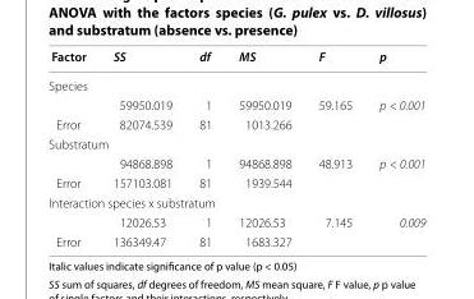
<table><thead><tr><td>Factor</td><td>SS</td><td>df</td><td>MS</td><td>F</td><td>p</td></tr></thead><tbody><tr><td colspan="6">Species</td></tr><tr><td></td><td>59950.019</td><td>1</td><td>59950.019</td><td>59.165</td><td>p &lt; 0.001</td></tr><tr><td>Error</td><td>82074.539</td><td>81</td><td>1013.266</td><td></td><td></td></tr><tr><td colspan="6">Substratum</td></tr><tr><td></td><td>94868.898</td><td>1</td><td>94868.898</td><td>48.913</td><td>p &lt; 0.001</td></tr><tr><td>Error</td><td>157103.081</td><td>81</td><td>1939.544</td><td></td><td></td></tr><tr><td colspan="6">Interaction species x substratum</td></tr><tr><td></td><td>12026.53</td><td>1</td><td>12026.53</td><td>7.145</td><td>0.009</td></tr><tr><td>Error</td><td>136349.47</td><td>81</td><td>1683.327</td><td></td><td></td></tr></tbody></table>